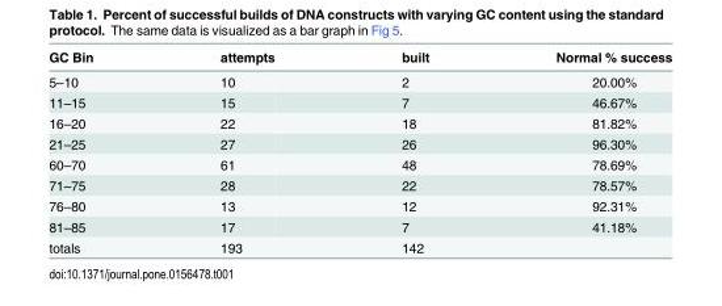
<table><thead><tr><td>GC Bin</td><td>attempts</td><td>built</td><td>Normal % success</td></tr></thead><tbody><tr><td>5–10</td><td>10</td><td>2</td><td>20.00%</td></tr><tr><td>11–15</td><td>15</td><td>7</td><td>46.67%</td></tr><tr><td>16–20</td><td>22</td><td>18</td><td>81.82%</td></tr><tr><td>21–25</td><td>27</td><td>26</td><td>96.30%</td></tr><tr><td>60–70</td><td>61</td><td>48</td><td>78.69%</td></tr><tr><td>71–75</td><td>28</td><td>22</td><td>78.57%</td></tr><tr><td>76–80</td><td>13</td><td>12</td><td>92.31%</td></tr><tr><td>81–85</td><td>17</td><td>7</td><td>41.18%</td></tr><tr><td>totals</td><td>193</td><td>142</td><td></td></tr></tbody></table>